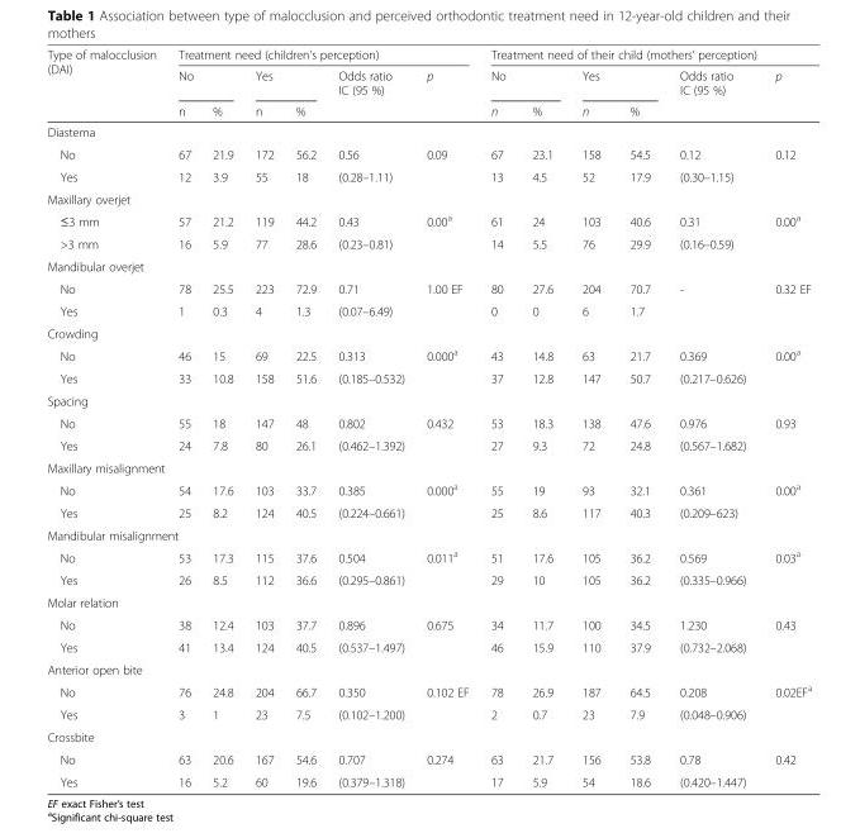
<table><thead><tr><td rowspan="3">Type of malocclusion (DAI)</td><td colspan="6">Treatment need (children’s perception)</td><td colspan="6">Treatment need of their child (mothers’ perception)</td></tr><tr><td colspan="2">No</td><td colspan="2">Yes</td><td rowspan="2">Odds ratio IC (95 %)</td><td rowspan="2">p</td><td colspan="2">No</td><td colspan="2">Yes</td><td rowspan="2">Odds ratio IC (95 %)</td><td rowspan="2">p</td></tr><tr><td>n</td><td>%</td><td>n</td><td>%</td><td>n</td><td>%</td><td>n</td><td>%</td></tr></thead><tbody><tr><td colspan="13">Diastema</td></tr><tr><td>No</td><td>67</td><td>21.9</td><td>172</td><td>56.2</td><td>0.56</td><td>0.09</td><td>67</td><td>23.1</td><td>158</td><td>54.5</td><td>0.12</td><td>0.12</td></tr><tr><td>Yes</td><td>12</td><td>3.9</td><td>55</td><td>18</td><td>(0.28–1.11)</td><td></td><td>13</td><td>4.5</td><td>52</td><td>17.9</td><td>(0.30–1.15)</td><td></td></tr><tr><td colspan="13">Maxillary overjet</td></tr><tr><td>≤3 mm</td><td>57</td><td>21.2</td><td>119</td><td>44.2</td><td>0.43</td><td>0.00<sup>a</sup></td><td>61</td><td>24</td><td>103</td><td>40.6</td><td>0.31</td><td>0.00<sup>a</sup></td></tr><tr><td>&gt;3 mm</td><td>16</td><td>5.9</td><td>77</td><td>28.6</td><td>(0.23–0.81)</td><td></td><td>14</td><td>5.5</td><td>76</td><td>29.9</td><td>(0.16–0.59)</td><td></td></tr><tr><td colspan="13">Mandibular overjet</td></tr><tr><td>No</td><td>78</td><td>25.5</td><td>223</td><td>72.9</td><td>0.71</td><td>1.00 EF</td><td>80</td><td>27.6</td><td>204</td><td>70.7</td><td>-</td><td>0.32 EF</td></tr><tr><td>Yes</td><td>1</td><td>0.3</td><td>4</td><td>1.3</td><td>(0.07–6.49)</td><td></td><td>0</td><td>0</td><td>6</td><td>1.7</td><td></td><td></td></tr><tr><td colspan="13">Crowding</td></tr><tr><td>No</td><td>46</td><td>15</td><td>69</td><td>22.5</td><td>0.313</td><td>0.000<sup>a</sup></td><td>43</td><td>14.8</td><td>63</td><td>21.7</td><td>0.369</td><td>0.00<sup>a</sup></td></tr><tr><td>Yes</td><td>33</td><td>10.8</td><td>158</td><td>51.6</td><td>(0.185–0.532)</td><td></td><td>37</td><td>12.8</td><td>147</td><td>50.7</td><td>(0.217–0.626)</td><td></td></tr><tr><td colspan="13">Spacing</td></tr><tr><td>No</td><td>55</td><td>18</td><td>147</td><td>48</td><td>0.802</td><td>0.432</td><td>53</td><td>18.3</td><td>138</td><td>47.6</td><td>0.976</td><td>0.93</td></tr><tr><td>Yes</td><td>24</td><td>7.8</td><td>80</td><td>26.1</td><td>(0.462–1.392)</td><td></td><td>27</td><td>9.3</td><td>72</td><td>24.8</td><td>(0.567–1.682)</td><td></td></tr><tr><td colspan="13">Maxillary misalignment</td></tr><tr><td>No</td><td>54</td><td>17.6</td><td>103</td><td>33.7</td><td>0.385</td><td>0.000<sup>a</sup></td><td>55</td><td>19</td><td>93</td><td>32.1</td><td>0.361</td><td>0.00<sup>a</sup></td></tr><tr><td>Yes</td><td>25</td><td>8.2</td><td>124</td><td>40.5</td><td>(0.224–0.661)</td><td></td><td>25</td><td>8.6</td><td>117</td><td>40.3</td><td>(0.209–623)</td><td></td></tr><tr><td colspan="13">Mandibular misalignment</td></tr><tr><td>No</td><td>53</td><td>17.3</td><td>115</td><td>37.6</td><td>0.504</td><td>0.011<sup>a</sup></td><td>51</td><td>17.6</td><td>105</td><td>36.2</td><td>0.569</td><td>0.03<sup>a</sup></td></tr><tr><td>Yes</td><td>26</td><td>8.5</td><td>112</td><td>36.6</td><td>(0.295–0.861)</td><td></td><td>29</td><td>10</td><td>105</td><td>36.2</td><td>(0.335–0.966)</td><td></td></tr><tr><td colspan="13">Molar relation</td></tr><tr><td>No</td><td>38</td><td>12.4</td><td>103</td><td>37.7</td><td>0.896</td><td>0.675</td><td>34</td><td>11.7</td><td>100</td><td>34.5</td><td>1.230</td><td>0.43</td></tr><tr><td>Yes</td><td>41</td><td>13.4</td><td>124</td><td>40.5</td><td>(0.537–1.497)</td><td></td><td>46</td><td>15.9</td><td>110</td><td>37.9</td><td>(0.732–2.068)</td><td></td></tr><tr><td colspan="13">Anterior open bite</td></tr><tr><td>No</td><td>76</td><td>24.8</td><td>204</td><td>66.7</td><td>0.350</td><td>0.102 EF</td><td>78</td><td>26.9</td><td>187</td><td>64.5</td><td>0.208</td><td>0.02EF<sup>a</sup></td></tr><tr><td>Yes</td><td>3</td><td>1</td><td>23</td><td>7.5</td><td>(0.102–1.200)</td><td></td><td>2</td><td>0.7</td><td>23</td><td>7.9</td><td>(0.048–0.906)</td><td></td></tr><tr><td colspan="13">Crossbite</td></tr><tr><td>No</td><td>63</td><td>20.6</td><td>167</td><td>54.6</td><td>0.707</td><td>0.274</td><td>63</td><td>21.7</td><td>156</td><td>53.8</td><td>0.78</td><td>0.42</td></tr><tr><td>Yes</td><td>16</td><td>5.2</td><td>60</td><td>19.6</td><td>(0.379–1.318)</td><td></td><td>17</td><td>5.9</td><td>54</td><td>18.6</td><td>(0.420–1.447)</td><td></td></tr></tbody></table>